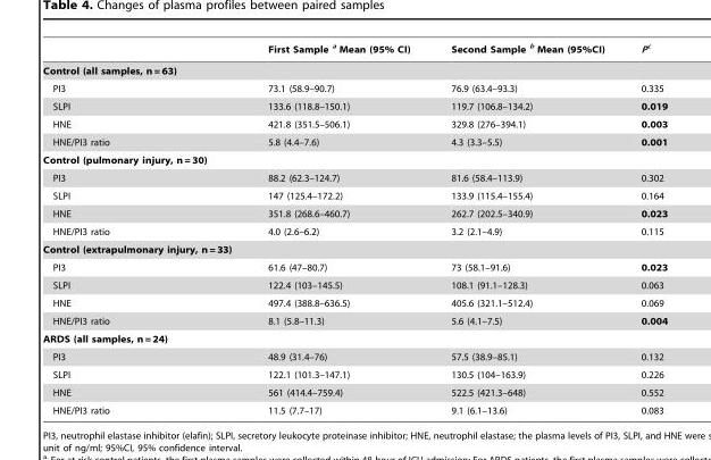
<table><thead><tr><td></td><td>First Sample a Mean (95% CI)</td><td>Second Sample b Mean (95%CI)</td><td>Pc</td></tr></thead><tbody><tr><td colspan="4">Control (all samples, n = 63)</td></tr><tr><td>PI3</td><td>73.1 (58.9–90.7)</td><td>76.9 (63.4–93.3)</td><td>0.335</td></tr><tr><td>SLPI</td><td>133.6 (118.8–150.1)</td><td>119.7 (106.8–134.2)</td><td>0.019</td></tr><tr><td>HNE</td><td>421.8 (351.5–506.1)</td><td>329.8 (276–394.1)</td><td>0.003</td></tr><tr><td>HNE/PI3 ratio</td><td>5.8 (4.4–7.6)</td><td>4.3 (3.3–5.5)</td><td>0.001</td></tr><tr><td colspan="4">Control (pulmonary injury, n = 30)</td></tr><tr><td>PI3</td><td>88.2 (62.3–124.7)</td><td>81.6 (58.4–113.9)</td><td>0.302</td></tr><tr><td>SLPI</td><td>147 (125.4–172.2)</td><td>133.9 (115.4–155.4)</td><td>0.164</td></tr><tr><td>HNE</td><td>351.8 (268.6–460.7)</td><td>262.7 (202.5–340.9)</td><td>0.023</td></tr><tr><td>HNE/PI3 ratio</td><td>4.0 (2.6–6.2)</td><td>3.2 (2.1–4.9)</td><td>0.115</td></tr><tr><td colspan="4">Control (extrapulmonary injury, n = 33)</td></tr><tr><td>PI3</td><td>61.6 (47–80.7)</td><td>73 (58.1–91.6)</td><td>0.023</td></tr><tr><td>SLPI</td><td>122.4 (103–145.5)</td><td>108.1 (91.1–128.3)</td><td>0.063</td></tr><tr><td>HNE</td><td>497.4 (388.8–636.5)</td><td>405.6 (321.1–512.4)</td><td>0.069</td></tr><tr><td>HNE/PI3 ratio</td><td>8.1 (5.8–11.3)</td><td>5.6 (4.1–7.5)</td><td>0.004</td></tr><tr><td colspan="4">ARDS (all samples, n = 24)</td></tr><tr><td>PI3</td><td>48.9 (31.4–76)</td><td>57.5 (38.9–85.1)</td><td>0.132</td></tr><tr><td>SLPI</td><td>122.1 (101.3–147.1)</td><td>130.5 (104–163.9)</td><td>0.226</td></tr><tr><td>HNE</td><td>561 (414.4–759.4)</td><td>522.5 (421.3–648)</td><td>0.552</td></tr><tr><td>HNE/PI3 ratio</td><td>11.5 (7.7–17)</td><td>9.1 (6.1–13.6)</td><td>0.083</td></tr></tbody></table>